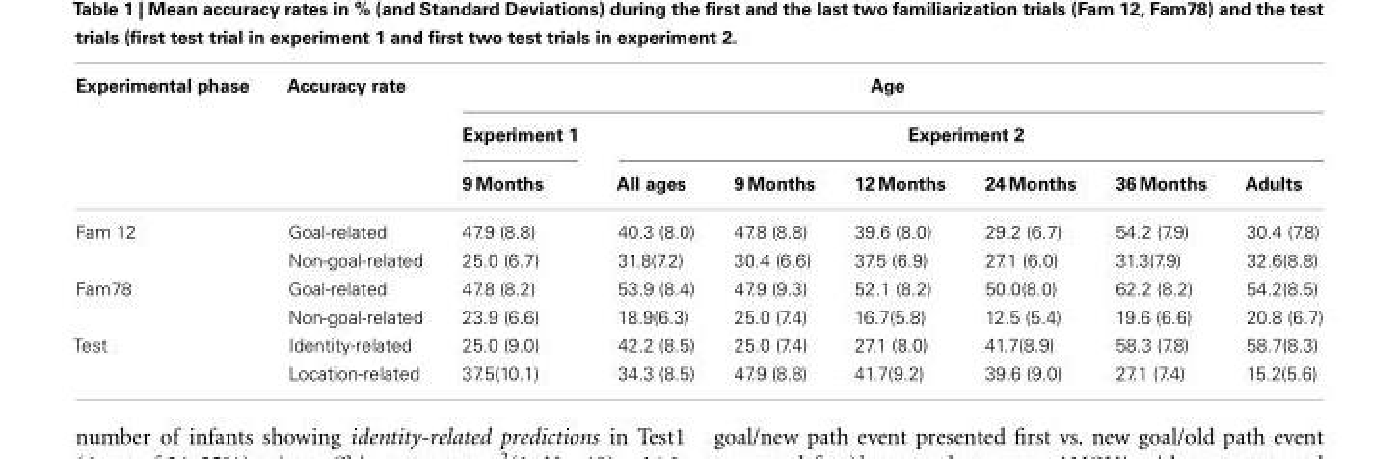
<table><thead><tr><td rowspan="3">Experimental phase</td><td rowspan="3">Accuracy rate</td><td colspan="7">Age</td></tr><tr><td rowspan="2">Experiment 1 9 Months</td><td colspan="6">Experiment 2</td></tr><tr><td>All ages</td><td>9 Months</td><td>12 Months</td><td>24 Months</td><td>36 Months</td><td>Adults</td></tr></thead><tbody><tr><td rowspan="2">Fam 12</td><td>Goal-related</td><td>47.9 (8.8)</td><td>40.3 (8.0)</td><td>47.8 (8.8)</td><td>39.6 (8.0)</td><td>29.2 (6.7)</td><td>54.2 (7.9)</td><td>30.4 (7.8)</td></tr><tr><td>Non-goal-related</td><td>25.0 (6.7)</td><td>31.8(7.2)</td><td>30.4 (6.6)</td><td>37.5 (6.9)</td><td>27.1 (6.0)</td><td>31.3(7.9)</td><td>32.6(8.8)</td></tr><tr><td rowspan="2">Fam78</td><td>Goal-related</td><td>47.8 (8.2)</td><td>53.9 (8.4)</td><td>47.9 (9.3)</td><td>52.1 (8.2)</td><td>50.0(8.0)</td><td>62.2 (8.2)</td><td>54.2(8.5)</td></tr><tr><td>Non-goal-related</td><td>23.9 (6.6)</td><td>18.9(6.3)</td><td>25.0 (7.4)</td><td>16.7(5.8)</td><td>12.5 (5.4)</td><td>19.6 (6.6)</td><td>20.8 (6.7)</td></tr><tr><td rowspan="2">Test</td><td>Identity-related</td><td>25.0 (9.0)</td><td>42.2 (8.5)</td><td>25.0 (7.4)</td><td>27.1 (8.0)</td><td>41.7(8.9)</td><td>58.3 (7.8)</td><td>58.7(8.3)</td></tr><tr><td>Location-related</td><td>37.5(10.1)</td><td>34.3 (8.5)</td><td>47.9 (8.8)</td><td>41.7(9.2)</td><td>39.6 (9.0)</td><td>27.1 (7.4)</td><td>15.2(5.6)</td></tr></tbody></table>